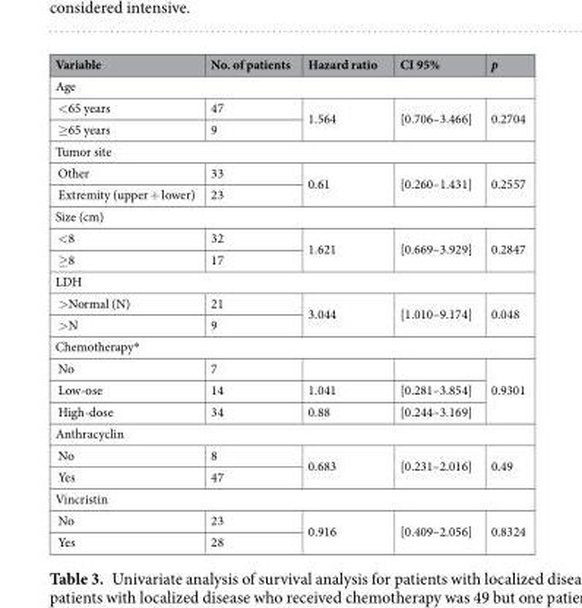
<table><thead><tr><td>Variable</td><td>No. of patients</td><td>Hazard ratio</td><td>CI 95%</td><td>p</td></tr></thead><tbody><tr><td colspan="5">Age</td></tr><tr><td>&lt;65 years</td><td>47</td><td rowspan="2">1.564</td><td rowspan="2">[0.706–3.466]</td><td rowspan="2">0.2704</td></tr><tr><td>≥65 years</td><td>9</td></tr><tr><td colspan="5">Tumor site</td></tr><tr><td>Other</td><td>33</td><td rowspan="2">0.61</td><td rowspan="2">[0.260–1.431]</td><td rowspan="2">0.2557</td></tr><tr><td>Extremity (upper + lower)</td><td>23</td></tr><tr><td colspan="5">Size (cm)</td></tr><tr><td>&lt;8</td><td>32</td><td rowspan="2">1.621</td><td rowspan="2">[0.669–3.929]</td><td rowspan="2">0.2847</td></tr><tr><td>≥8</td><td>17</td></tr><tr><td colspan="5">LDH</td></tr><tr><td>&gt;Normal (N)</td><td>21</td><td rowspan="2">3.044</td><td rowspan="2">[1.010–9.174]</td><td rowspan="2">0.048</td></tr><tr><td>&gt;N</td><td>9</td></tr><tr><td colspan="5">Chemotherapy*</td></tr><tr><td>No</td><td>7</td><td></td><td></td><td rowspan="3">0.9301</td></tr><tr><td>Low-ose</td><td>14</td><td>1.041</td><td>[0.281–3.854]</td></tr><tr><td>High-dose</td><td>34</td><td>0.88</td><td>[0.244–3.169]</td></tr><tr><td colspan="5">Anthracyclin</td></tr><tr><td>No</td><td>8</td><td rowspan="2">0.683</td><td rowspan="2">[0.231–2.016]</td><td rowspan="2">0.49</td></tr><tr><td>Yes</td><td>47</td></tr><tr><td colspan="5">Vincristin</td></tr><tr><td>No</td><td>23</td><td rowspan="2">0.916</td><td rowspan="2">[0.409–2.056]</td><td rowspan="2">0.8324</td></tr><tr><td>Yes</td><td>28</td></tr></tbody></table>